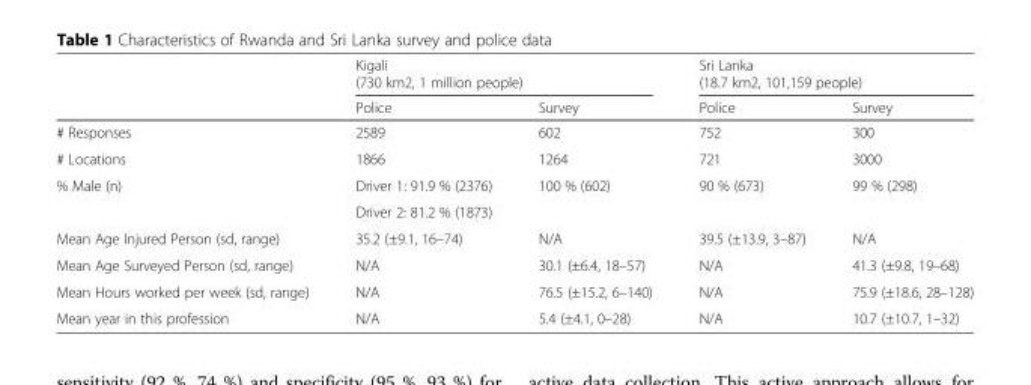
<table><thead><tr><td rowspan="3"></td><td rowspan="2" colspan="2">Kigali (730 km2, 1 million people)</td><td rowspan="2" colspan="2">Sri Lanka (18.7 km2, 101,159 people)</td></tr><tr></tr><tr><td>Police</td><td>Survey</td><td>Police</td><td>Survey</td></tr></thead><tbody><tr><td># Responses</td><td>2589</td><td>602</td><td>752</td><td>300</td></tr><tr><td># Locations</td><td>1866</td><td>1264</td><td>721</td><td>3000</td></tr><tr><td rowspan="2">% Male (n)</td><td>Driver 1: 91.9 % (2376)</td><td rowspan="2">100 % (602)</td><td rowspan="2">90 % (673)</td><td rowspan="2">99 % (298)</td></tr><tr><td>Driver 2: 81.2 % (1873)</td></tr><tr><td>Mean Age Injured Person (sd, range)</td><td>35.2 (±9.1, 16–74)</td><td>N/A</td><td>39.5 (±13.9, 3–87)</td><td>N/A</td></tr><tr><td>Mean Age Surveyed Person (sd, range)</td><td>N/A</td><td>30.1 (±6.4, 18–57)</td><td>N/A</td><td>41.3 (±9.8, 19–68)</td></tr><tr><td>Mean Hours worked per week (sd, range)</td><td>N/A</td><td>76.5 (±15.2, 6–140)</td><td>N/A</td><td>75.9 (±18.6, 28–128)</td></tr><tr><td>Mean year in this profession</td><td>N/A</td><td>5.4 (±4.1, 0–28)</td><td>N/A</td><td>10.7 (±10.7, 1–32)</td></tr></tbody></table>